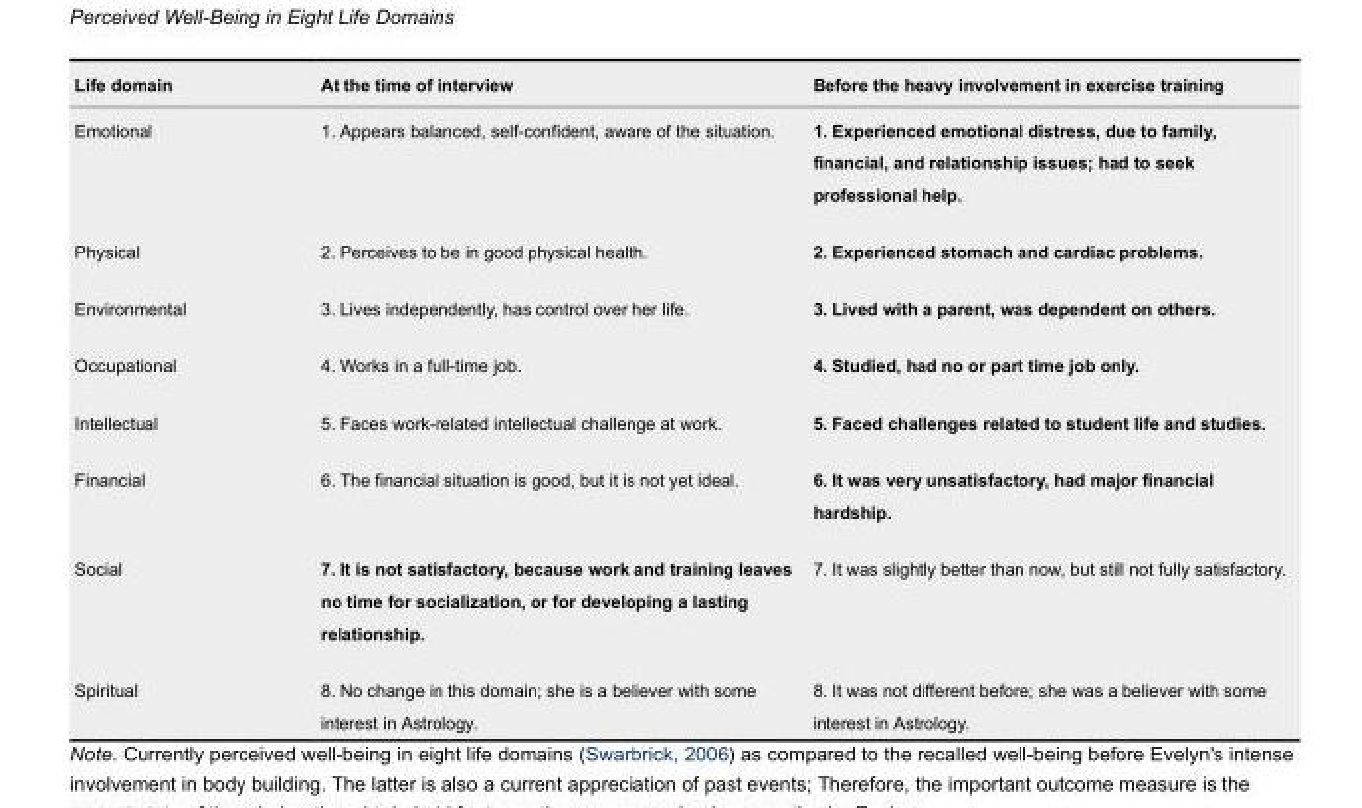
<table><thead><tr><td>Life domain</td><td>At the time of interview</td><td>Before the heavy involvement in exercise training</td></tr></thead><tbody><tr><td>Emotional</td><td>1. Appears balanced, self-confident, aware of the situation.</td><td>1. Experienced emotional distress, due to family, financial, and relationship issues; had to seek professional help.</td></tr><tr><td>Physical</td><td>2. Perceives to be in good physical health.</td><td>2. Experienced stomach and cardiac problems.</td></tr><tr><td>Environmental</td><td>3. Lives independently, has control over her life.</td><td>3. Lived with a parent, was dependent on others.</td></tr><tr><td>Occupational</td><td>4. Works in a full-time job.</td><td>4. Studied, had no or part time job only.</td></tr><tr><td>Intellectual</td><td>5. Faces work-related intellectual challenge at work.</td><td>5. Faced challenges related to student life and studies.</td></tr><tr><td>Financial</td><td>6. The financial situation is good, but it is not yet ideal.</td><td>6. It was very unsatisfactory, had major financial hardship.</td></tr><tr><td>Social</td><td>7. It is not satisfactory, because work and training leaves no time for socialization, or for developing a lasting relationship.</td><td>7. It was slightly better than now, but still not fully satisfactory.</td></tr><tr><td>Spiritual</td><td>8. No change in this domain; she is a believer with some interest in Astrology.</td><td>8. It was not different before; she was a believer with some interest in Astrology.</td></tr></tbody></table>